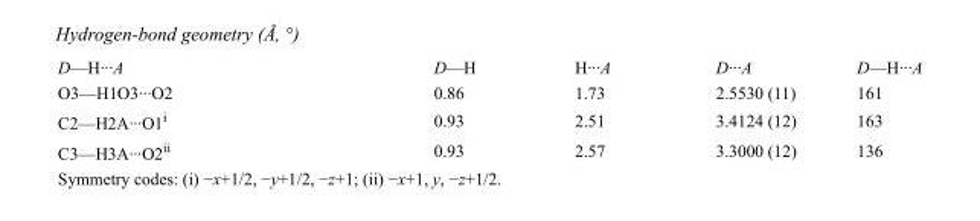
<table><tbody><tr><td>D—H···A</td><td>D—H</td><td>H···A</td><td>D···A</td><td>D—H···A</td></tr><tr><td>O3—H1O3···O2</td><td>0.86</td><td>1.73</td><td>2.5530 (11)</td><td>161</td></tr><tr><td>C2—H2A···O1<sup>i</sup></td><td>0.93</td><td>2.51</td><td>3.4124 (12)</td><td>163</td></tr><tr><td>C3—H3A···O2<sup>ii</sup></td><td>0.93</td><td>2.57</td><td>3.3000 (12)</td><td>136</td></tr></tbody></table>